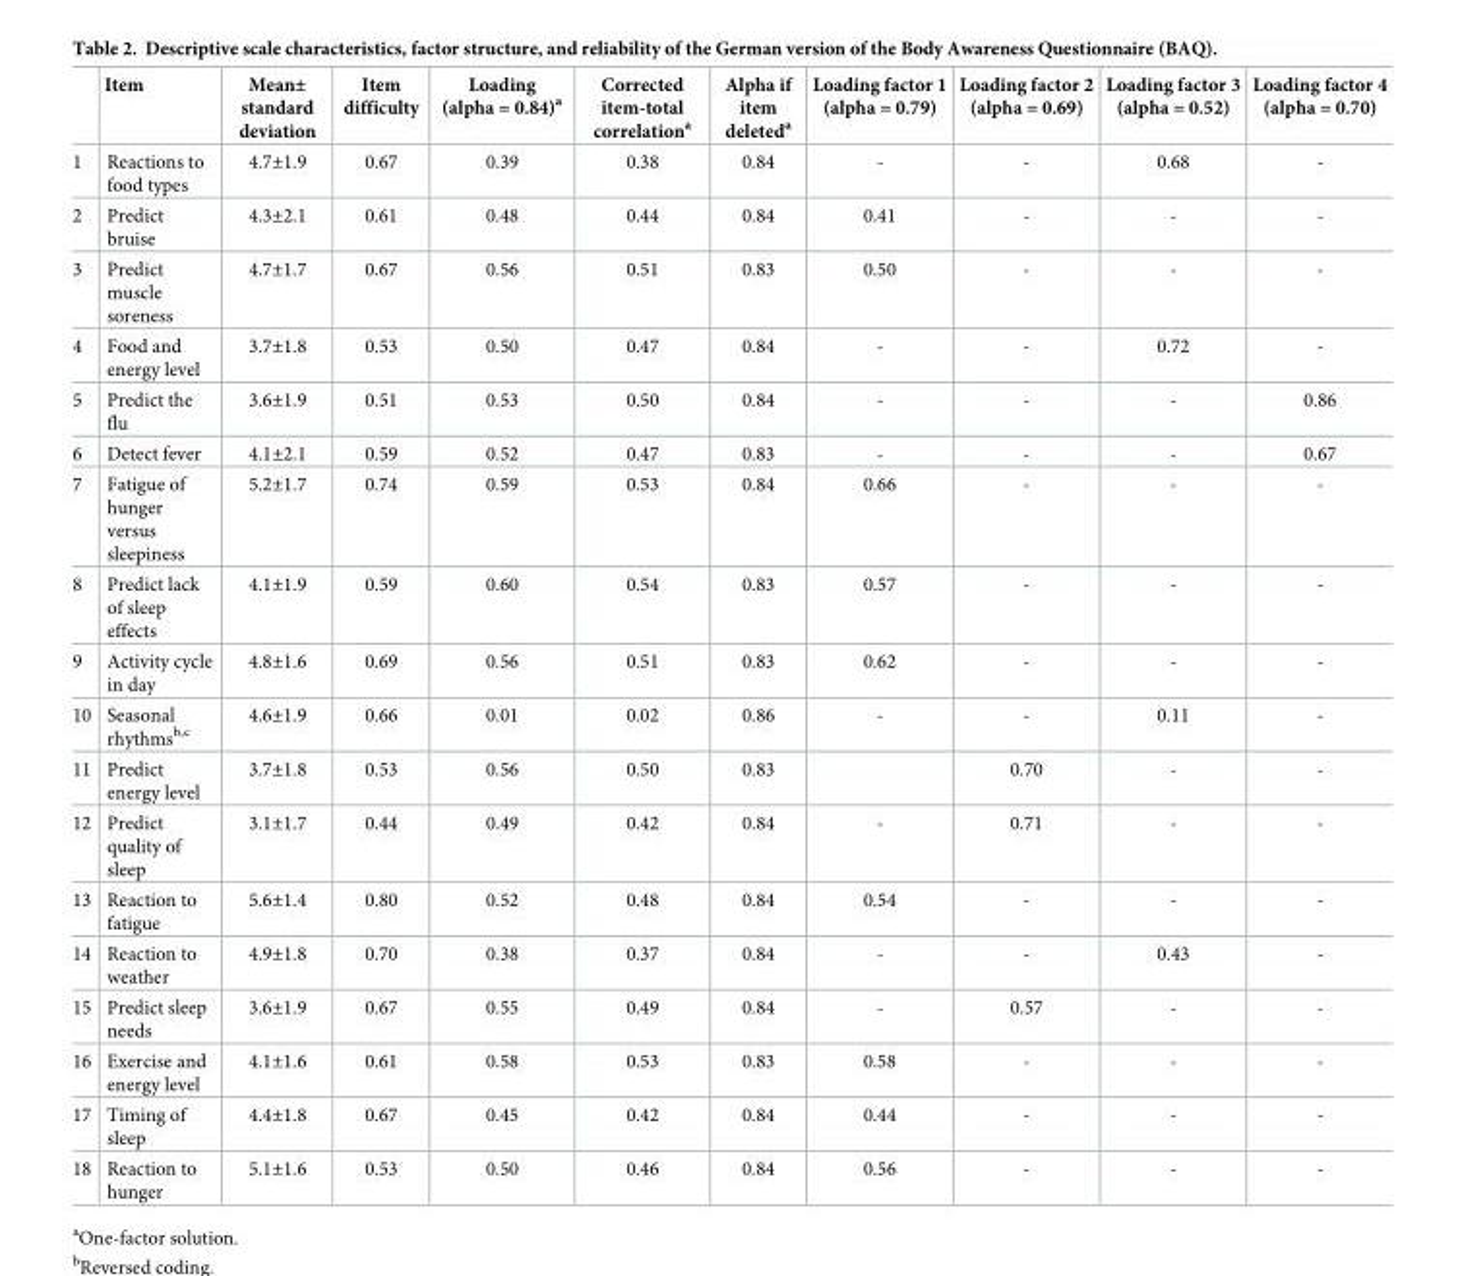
<table><thead><tr><td></td><td>Item</td><td>Mean± standard deviation</td><td>Item difficulty</td><td>Loading (alpha = 0.84)<sup>a</sup></td><td>Corrected item-total correlation<sup>a</sup></td><td>Alpha if item deleted<sup>a</sup></td><td>Loading factor 1 (alpha = 0.79)</td><td>Loading factor 2 (alpha = 0.69)</td><td>Loading factor 3 (alpha = 0.52)</td><td>Loading factor 4 (alpha = 0.70)</td></tr></thead><tbody><tr><td>1</td><td>Reactions to food types</td><td>4.7±1.9</td><td>0.67</td><td>0.39</td><td>0.38</td><td>0.84</td><td>-</td><td>-</td><td>0.68</td><td>-</td></tr><tr><td>2</td><td>Predict bruise</td><td>4.3±2.1</td><td>0.61</td><td>0.48</td><td>0.44</td><td>0.84</td><td>0.41</td><td>-</td><td>-</td><td>-</td></tr><tr><td>3</td><td>Predict muscle soreness</td><td>4.7±1.7</td><td>0.67</td><td>0.56</td><td>0.51</td><td>0.83</td><td>0.50</td><td>-</td><td>-</td><td>-</td></tr><tr><td>4</td><td>Food and energy level</td><td>3.7±1.8</td><td>0.53</td><td>0.50</td><td>0.47</td><td>0.84</td><td>-</td><td>-</td><td>0.72</td><td>-</td></tr><tr><td>5</td><td>Predict the flu</td><td>3.6±1.9</td><td>0.51</td><td>0.53</td><td>0.50</td><td>0.84</td><td>-</td><td>-</td><td>-</td><td>0.86</td></tr><tr><td>6</td><td>Detect fever</td><td>4.1±2.1</td><td>0.59</td><td>0.52</td><td>0.47</td><td>0.83</td><td>-</td><td>-</td><td>-</td><td>0.67</td></tr><tr><td>7</td><td>Fatigue of hunger versus sleepiness</td><td>5.2±1.7</td><td>0.74</td><td>0.59</td><td>0.53</td><td>0.84</td><td>0.66</td><td>-</td><td>-</td><td>-</td></tr><tr><td>8</td><td>Predict lack of sleep effects</td><td>4.1±1.9</td><td>0.59</td><td>0.60</td><td>0.54</td><td>0.83</td><td>0.57</td><td>-</td><td>-</td><td>-</td></tr><tr><td>9</td><td>Activity cycle in day</td><td>4.8±1.6</td><td>0.69</td><td>0.56</td><td>0.51</td><td>0.83</td><td>0.62</td><td>-</td><td>-</td><td>-</td></tr><tr><td>10</td><td>Seasonal rhythms<sup>b,c</sup></td><td>4.6±1.9</td><td>0.66</td><td>0.01</td><td>0.02</td><td>0.86</td><td>-</td><td>-</td><td>0.11</td><td>-</td></tr><tr><td>11</td><td>Predict energy level</td><td>3.7±1.8</td><td>0.53</td><td>0.56</td><td>0.50</td><td>0.83</td><td></td><td>0.70</td><td>-</td><td>-</td></tr><tr><td>12</td><td>Predict quality of sleep</td><td>3.1±1.7</td><td>0.44</td><td>0.49</td><td>0.42</td><td>0.84</td><td>-</td><td>0.71</td><td>-</td><td>-</td></tr><tr><td>13</td><td>Reaction to fatigue</td><td>5.6±1.4</td><td>0.80</td><td>0.52</td><td>0.48</td><td>0.84</td><td>0.54</td><td>-</td><td>-</td><td>-</td></tr><tr><td>14</td><td>Reaction to weather</td><td>4.9±1.8</td><td>0.70</td><td>0.38</td><td>0.37</td><td>0.84</td><td>-</td><td>-</td><td>0.43</td><td>-</td></tr><tr><td>15</td><td>Predict sleep needs</td><td>3.6±1.9</td><td>0.67</td><td>0.55</td><td>0.49</td><td>0.84</td><td>-</td><td>0.57</td><td>-</td><td>-</td></tr><tr><td>16</td><td>Exercise and energy level</td><td>4.1±1.6</td><td>0.61</td><td>0.58</td><td>0.53</td><td>0.83</td><td>0.58</td><td>-</td><td>-</td><td>-</td></tr><tr><td>17</td><td>Timing of sleep</td><td>4.4±1.8</td><td>0.67</td><td>0.45</td><td>0.42</td><td>0.84</td><td>0.44</td><td>-</td><td>-</td><td>-</td></tr><tr><td>18</td><td>Reaction to hunger</td><td>5.1±1.6</td><td>0.53</td><td>0.50</td><td>0.46</td><td>0.84</td><td>0.56</td><td>-</td><td>-</td><td>-</td></tr></tbody></table>